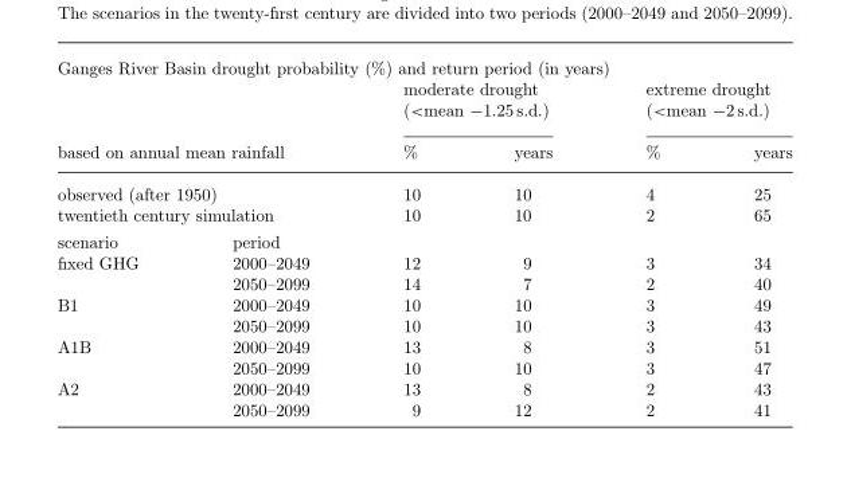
<table><thead><tr><td colspan="6">Ganges River Basin drought probability (%) and return period (in years)</td></tr><tr><td rowspan="2"></td><td rowspan="2"></td><td rowspan="2" colspan="2">moderate drought (&lt;mean −1.25 s.d.)</td><td rowspan="2" colspan="2">extreme drought (&lt;mean −2 s.d.)</td></tr><tr></tr><tr><td colspan="2">based on annual mean rainfall</td><td>%</td><td>years</td><td>%</td><td>years</td></tr></thead><tbody><tr><td colspan="2">observed (after 1950)</td><td>10</td><td>10</td><td>4</td><td>25</td></tr><tr><td colspan="2">twentieth century simulation</td><td>10</td><td>10</td><td>2</td><td>65</td></tr><tr><td>scenario</td><td>period</td><td></td><td></td><td></td><td></td></tr><tr><td rowspan="2">fixed GHG</td><td>2000–2049</td><td>12</td><td>9</td><td>3</td><td>34</td></tr><tr><td>2050–2099</td><td>14</td><td>7</td><td>2</td><td>40</td></tr><tr><td rowspan="2">B1</td><td>2000–2049</td><td>10</td><td>10</td><td>3</td><td>49</td></tr><tr><td>2050–2099</td><td>10</td><td>10</td><td>3</td><td>43</td></tr><tr><td rowspan="2">A1B</td><td>2000–2049</td><td>13</td><td>8</td><td>3</td><td>51</td></tr><tr><td>2050–2099</td><td>10</td><td>10</td><td>3</td><td>47</td></tr><tr><td rowspan="2">A2</td><td>2000–2049</td><td>13</td><td>8</td><td>2</td><td>43</td></tr><tr><td>2050–2099</td><td>9</td><td>12</td><td>2</td><td>41</td></tr></tbody></table>